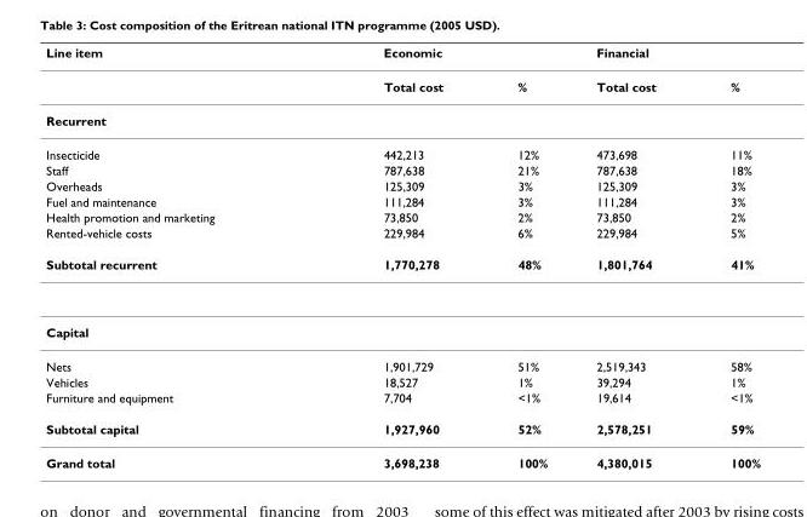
<table><thead><tr><td rowspan="2">Line item</td><td colspan="2">Economic</td><td colspan="2">Financial</td></tr><tr><td>Total cost</td><td>%</td><td>Total cost</td><td>%</td></tr></thead><tbody><tr><td colspan="5">Recurrent</td></tr><tr><td>Insecticide</td><td>442,213</td><td>12%</td><td>473,698</td><td>11%</td></tr><tr><td>Staff</td><td>787,638</td><td>21%</td><td>787,638</td><td>18%</td></tr><tr><td>Overheads</td><td>125,309</td><td>3%</td><td>125,309</td><td>3%</td></tr><tr><td>Fuel and maintenance</td><td>111,284</td><td>3%</td><td>111,284</td><td>3%</td></tr><tr><td>Health promotion and marketing</td><td>73,850</td><td>2%</td><td>73,850</td><td>2%</td></tr><tr><td>Rented-vehicle costs</td><td>229,984</td><td>6%</td><td>229,984</td><td>5%</td></tr><tr><td>Subtotal recurrent</td><td>1,770,278</td><td>48%</td><td>1,801,764</td><td>41%</td></tr><tr><td colspan="5">Capital</td></tr><tr><td>Nets</td><td>1,901,729</td><td>51%</td><td>2,519,343</td><td>58%</td></tr><tr><td>Vehicles</td><td>18,527</td><td>1%</td><td>39,294</td><td>1%</td></tr><tr><td>Furniture and equipment</td><td>7,704</td><td>&lt;1%</td><td>19,614</td><td>&lt;1%</td></tr><tr><td>Subtotal capital</td><td>1,927,960</td><td>52%</td><td>2,578,251</td><td>59%</td></tr><tr><td>Grand total</td><td>3,698,238</td><td>100%</td><td>4,380,015</td><td>100%</td></tr></tbody></table>